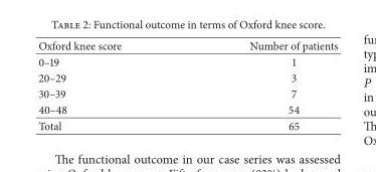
<table><thead><tr><td>Oxford knee score</td><td>Number of patients</td></tr></thead><tbody><tr><td>0–19</td><td>1</td></tr><tr><td>20–29</td><td>3</td></tr><tr><td>30–39</td><td>7</td></tr><tr><td>40–48</td><td>54</td></tr><tr><td>Total</td><td>65</td></tr></tbody></table>